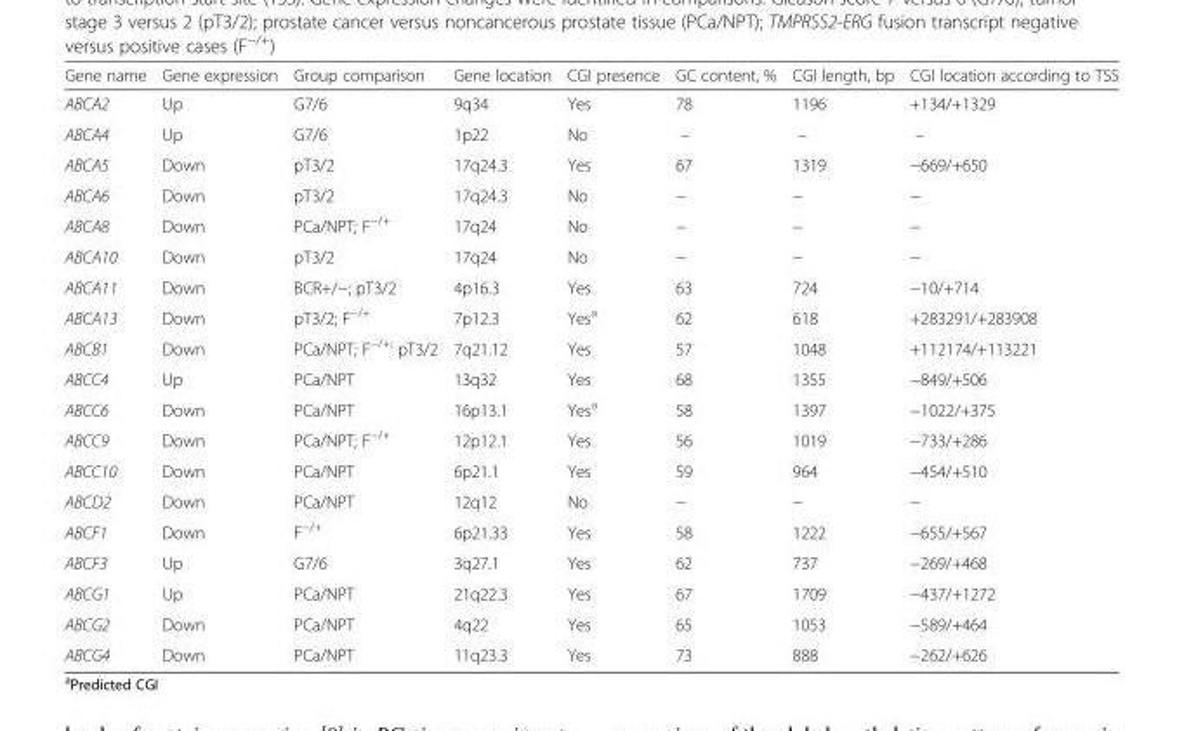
<table><thead><tr><td>Gene name</td><td>Gene expression</td><td>Group comparison</td><td>Gene location</td><td>CGI presence</td><td>GC content, %</td><td>CGI length, bp</td><td>CGI location according to TSS</td></tr></thead><tbody><tr><td>ABCA2</td><td>Up</td><td>G7/6</td><td>9q34</td><td>Yes</td><td>78</td><td>1196</td><td>+134/+1329</td></tr><tr><td>ABCA4</td><td>Up</td><td>G7/6</td><td>1p22</td><td>No</td><td>–</td><td>–</td><td>–</td></tr><tr><td>ABCA5</td><td>Down</td><td>pT3/2</td><td>17q24.3</td><td>Yes</td><td>67</td><td>1319</td><td>−669/+650</td></tr><tr><td>ABCA6</td><td>Down</td><td>pT3/2</td><td>17q24.3</td><td>No</td><td>−</td><td>−</td><td>−</td></tr><tr><td>ABCA8</td><td>Down</td><td>PCa/NPT; F<sup>−/+</sup></td><td>17q24</td><td>No</td><td>−</td><td>−</td><td>−</td></tr><tr><td>ABCA10</td><td>Down</td><td>pT3/2</td><td>17q24</td><td>No</td><td>−</td><td>−</td><td>−</td></tr><tr><td>ABCA11</td><td>Down</td><td>BCR+/−; pT3/2</td><td>4p16.3</td><td>Yes</td><td>63</td><td>724</td><td>−10/+714</td></tr><tr><td>ABCA13</td><td>Down</td><td>pT3/2; F<sup>−/+</sup></td><td>7p12.3</td><td>Yes<sup>a</sup></td><td>62</td><td>618</td><td>+283291/+283908</td></tr><tr><td>ABCB1</td><td>Down</td><td>PCa/NPT; F<sup>−/+;</sup> pT3/2</td><td>7q21.12</td><td>Yes</td><td>57</td><td>1048</td><td>+112174/+113221</td></tr><tr><td>ABCC4</td><td>Up</td><td>PCa/NPT</td><td>13q32</td><td>Yes</td><td>68</td><td>1355</td><td>−849/+506</td></tr><tr><td>ABCC6</td><td>Down</td><td>PCa/NPT</td><td>16p13.1</td><td>Yes<sup>a</sup></td><td>58</td><td>1397</td><td>−1022/+375</td></tr><tr><td>ABCC9</td><td>Down</td><td>PCa/NPT; F<sup>−/+</sup></td><td>12p12.1</td><td>Yes</td><td>56</td><td>1019</td><td>−733/+286</td></tr><tr><td>ABCC10</td><td>Down</td><td>PCa/NPT</td><td>6p21.1</td><td>Yes</td><td>59</td><td>964</td><td>−454/+510</td></tr><tr><td>ABCD2</td><td>Down</td><td>PCa/NPT</td><td>12q12</td><td>No</td><td>−</td><td>−</td><td>−</td></tr><tr><td>ABCF1</td><td>Down</td><td>F<sup>−/+</sup></td><td>6p21.33</td><td>Yes</td><td>58</td><td>1222</td><td>−655/+567</td></tr><tr><td>ABCF3</td><td>Up</td><td>G7/6</td><td>3q27.1</td><td>Yes</td><td>62</td><td>737</td><td>−269/+468</td></tr><tr><td>ABCG1</td><td>Up</td><td>PCa/NPT</td><td>21q22.3</td><td>Yes</td><td>67</td><td>1709</td><td>−437/+1272</td></tr><tr><td>ABCG2</td><td>Down</td><td>PCa/NPT</td><td>4q22</td><td>Yes</td><td>65</td><td>1053</td><td>−589/+464</td></tr><tr><td>ABCG4</td><td>Down</td><td>PCa/NPT</td><td>11q23.3</td><td>Yes</td><td>73</td><td>888</td><td>−262/+626</td></tr></tbody></table>